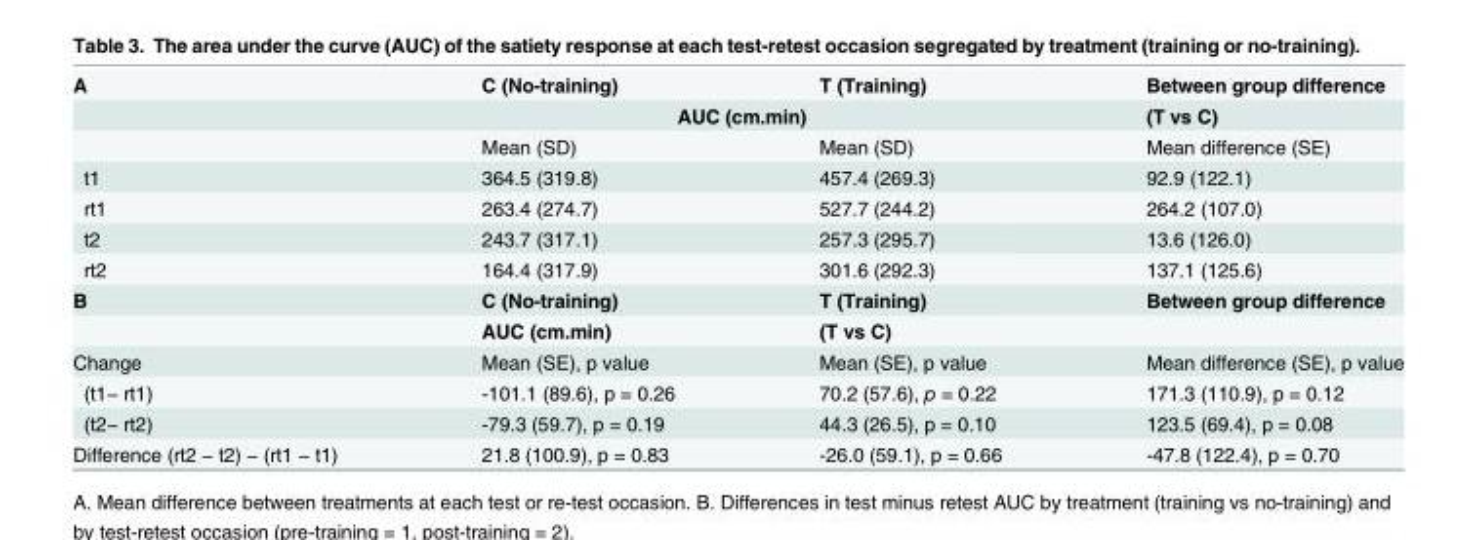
<table><tbody><tr><td rowspan="3">A</td><td>C (No-training)</td><td>T (Training)</td><td>Between group difference</td></tr><tr><td colspan="2">AUC (cm.min)</td><td>(T vs C)</td></tr><tr><td>Mean (SD)</td><td>Mean (SD)</td><td>Mean difference (SE)</td></tr><tr><td>t1</td><td>364.5 (319.8)</td><td>457.4 (269.3)</td><td>92.9 (122.1)</td></tr><tr><td>rt1</td><td>263.4 (274.7)</td><td>527.7 (244.2)</td><td>264.2 (107.0)</td></tr><tr><td>t2</td><td>243.7 (317.1)</td><td>257.3 (295.7)</td><td>13.6 (126.0)</td></tr><tr><td>rt2</td><td>164.4 (317.9)</td><td>301.6 (292.3)</td><td>137.1 (125.6)</td></tr><tr><td rowspan="2">B</td><td>C (No-training)</td><td>T (Training)</td><td>Between group difference</td></tr><tr><td>AUC (cm.min)</td><td>(T vs C)</td><td></td></tr><tr><td>Change</td><td>Mean (SE), p value</td><td>Mean (SE), p value</td><td>Mean difference (SE), p value</td></tr><tr><td>(t1− rt1)</td><td>-101.1 (89.6), p = 0.26</td><td>70.2 (57.6), p = 0.22</td><td>171.3 (110.9), p = 0.12</td></tr><tr><td>(t2− rt2)</td><td>-79.3 (59.7), p = 0.19</td><td>44.3 (26.5), p = 0.10</td><td>123.5 (69.4), p = 0.08</td></tr><tr><td>Difference (rt2 − t2) − (rt1 − t1)</td><td>21.8 (100.9), p = 0.83</td><td>-26.0 (59.1), p = 0.66</td><td>-47.8 (122.4), p = 0.70</td></tr></tbody></table>